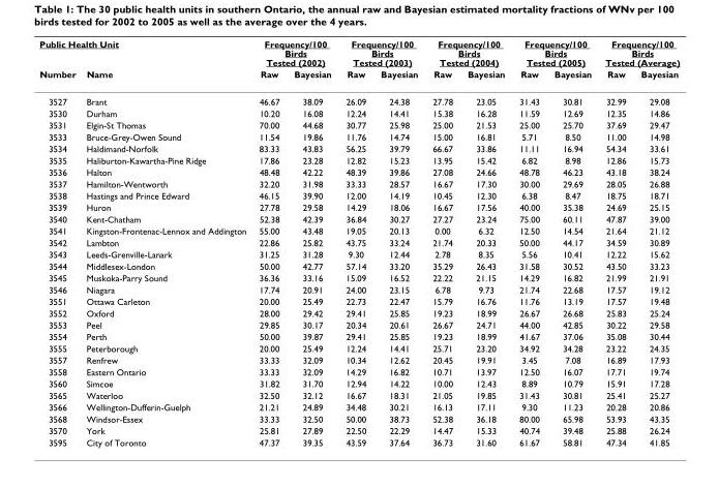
<table><thead><tr><td colspan="2">Public Health Unit</td><td colspan="2">Frequency/100 Birds Tested (2002)</td><td colspan="2">Frequency/100 Birds Tested (2003)</td><td colspan="2">Frequency/100 Birds Tested (2004)</td><td colspan="2">Frequency/100 Birds Tested (2005)</td><td colspan="2">Frequency/100 Birds Tested (Average)</td></tr><tr><td>Number</td><td>Name</td><td>Raw</td><td>Bayesian</td><td>Raw</td><td>Bayesian</td><td>Raw</td><td>Bayesian</td><td>Raw</td><td>Bayesian</td><td>Raw</td><td>Bayesian</td></tr></thead><tbody><tr><td>3527</td><td>Brant</td><td>46.67</td><td>38.09</td><td>26.09</td><td>24.38</td><td>27.78</td><td>23.05</td><td>31.43</td><td>30.81</td><td>32.99</td><td>29.08</td></tr><tr><td>3530</td><td>Durham</td><td>10.20</td><td>16.08</td><td>12.24</td><td>14.41</td><td>15.38</td><td>16.28</td><td>11.59</td><td>12.69</td><td>12.35</td><td>14.86</td></tr><tr><td>3531</td><td>Elgin-St Thomas</td><td>70.00</td><td>44.68</td><td>30.77</td><td>25.98</td><td>25.00</td><td>21.53</td><td>25.00</td><td>25.70</td><td>37.69</td><td>29.47</td></tr><tr><td>3533</td><td>Bruce-Grey-Owen Sound</td><td>11.54</td><td>19.86</td><td>11.76</td><td>14.74</td><td>15.00</td><td>16.81</td><td>5.71</td><td>8.50</td><td>11.00</td><td>14.98</td></tr><tr><td>3534</td><td>Haldimand-Norfolk</td><td>83.33</td><td>43.83</td><td>56.25</td><td>39.79</td><td>66.67</td><td>33.86</td><td>11.11</td><td>16.94</td><td>54.34</td><td>33.61</td></tr><tr><td>3535</td><td>Haliburton-Kawartha-Pine Ridge</td><td>17.86</td><td>23.28</td><td>12.82</td><td>15.23</td><td>13.95</td><td>15.42</td><td>6.82</td><td>8.98</td><td>12.86</td><td>15.73</td></tr><tr><td>3536</td><td>Halton</td><td>48.48</td><td>42.22</td><td>48.39</td><td>39.86</td><td>27.08</td><td>24.66</td><td>48.78</td><td>46.23</td><td>43.18</td><td>38.24</td></tr><tr><td>3537</td><td>Hamilton-Wentworth</td><td>32.20</td><td>31.98</td><td>33.33</td><td>28.57</td><td>16.67</td><td>17.30</td><td>30.00</td><td>29.69</td><td>28.05</td><td>26.88</td></tr><tr><td>3538</td><td>Hastings and Prince Edward</td><td>46.15</td><td>39.90</td><td>12.00</td><td>14.19</td><td>10.45</td><td>12.30</td><td>6.38</td><td>8.47</td><td>18.75</td><td>18.71</td></tr><tr><td>3539</td><td>Huron</td><td>27.78</td><td>29.58</td><td>14.29</td><td>18.06</td><td>16.67</td><td>17.56</td><td>40.00</td><td>35.38</td><td>24.69</td><td>25.15</td></tr><tr><td>3540</td><td>Kent-Chatham</td><td>52.38</td><td>42.39</td><td>36.84</td><td>30.27</td><td>27.27</td><td>23.24</td><td>75.00</td><td>60.11</td><td>47.87</td><td>39.00</td></tr><tr><td>3541</td><td>Kingston-Frontenac-Lennox and Addington</td><td>55.00</td><td>43.48</td><td>19.05</td><td>20.13</td><td>0.00</td><td>6.32</td><td>12.50</td><td>14.54</td><td>21.64</td><td>21.12</td></tr><tr><td>3542</td><td>Lambton</td><td>22.86</td><td>25.82</td><td>43.75</td><td>33.24</td><td>21.74</td><td>20.33</td><td>50.00</td><td>44.17</td><td>34.59</td><td>30.89</td></tr><tr><td>3543</td><td>Leeds-Grenville-Lanark</td><td>31.25</td><td>31.28</td><td>9.30</td><td>12.44</td><td>2.78</td><td>8.35</td><td>5.56</td><td>10.41</td><td>12.22</td><td>15.62</td></tr><tr><td>3544</td><td>Middlesex-London</td><td>50.00</td><td>42.77</td><td>57.14</td><td>33.20</td><td>35.29</td><td>26.43</td><td>31.58</td><td>30.52</td><td>43.50</td><td>33.23</td></tr><tr><td>3545</td><td>Muskoka-Parry Sound</td><td>36.36</td><td>33.16</td><td>15.09</td><td>16.52</td><td>22.22</td><td>21.15</td><td>14.29</td><td>16.82</td><td>21.99</td><td>21.91</td></tr><tr><td>3546</td><td>Niagara</td><td>17.74</td><td>20.91</td><td>24.00</td><td>23.15</td><td>6.78</td><td>9.73</td><td>21.74</td><td>22.68</td><td>17.57</td><td>19.12</td></tr><tr><td>3551</td><td>Ottawa Carleton</td><td>20.00</td><td>25.49</td><td>22.73</td><td>22.47</td><td>15.79</td><td>16.76</td><td>11.76</td><td>13.19</td><td>17.57</td><td>19.48</td></tr><tr><td>3552</td><td>Oxford</td><td>28.00</td><td>29.42</td><td>29.41</td><td>25.85</td><td>19.23</td><td>18.99</td><td>26.67</td><td>26.68</td><td>25.83</td><td>25.24</td></tr><tr><td>3553</td><td>Peel</td><td>29.85</td><td>30.17</td><td>20.34</td><td>20.61</td><td>26.67</td><td>24.71</td><td>44.00</td><td>42.85</td><td>30.22</td><td>29.58</td></tr><tr><td>3554</td><td>Perth</td><td>50.00</td><td>39.87</td><td>29.41</td><td>25.85</td><td>19.23</td><td>18.99</td><td>41.67</td><td>37.06</td><td>35.08</td><td>30.44</td></tr><tr><td>3555</td><td>Peterborough</td><td>20.00</td><td>25.49</td><td>12.24</td><td>14.41</td><td>25.71</td><td>23.20</td><td>34.92</td><td>34.28</td><td>23.22</td><td>24.35</td></tr><tr><td>3557</td><td>Renfrew</td><td>33.33</td><td>32.09</td><td>10.34</td><td>12.62</td><td>20.45</td><td>19.91</td><td>3.45</td><td>7.08</td><td>16.89</td><td>17.93</td></tr><tr><td>3558</td><td>Eastern Ontario</td><td>33.33</td><td>32.09</td><td>14.29</td><td>16.82</td><td>10.71</td><td>13.97</td><td>12.50</td><td>16.07</td><td>17.71</td><td>19.74</td></tr><tr><td>3560</td><td>Simcoe</td><td>31.82</td><td>31.70</td><td>12.94</td><td>14.22</td><td>10.00</td><td>12.43</td><td>8.89</td><td>10.79</td><td>15.91</td><td>17.28</td></tr><tr><td>3565</td><td>Waterloo</td><td>32.50</td><td>32.12</td><td>16.67</td><td>18.31</td><td>21.05</td><td>19.85</td><td>31.43</td><td>30.81</td><td>25.41</td><td>25.27</td></tr><tr><td>3566</td><td>Wellington-Dufferin-Guelph</td><td>21.21</td><td>24.89</td><td>34.48</td><td>30.21</td><td>16.13</td><td>17.11</td><td>9.30</td><td>11.23</td><td>20.28</td><td>20.86</td></tr><tr><td>3568</td><td>Windsor-Essex</td><td>33.33</td><td>32.50</td><td>50.00</td><td>38.73</td><td>52.38</td><td>36.18</td><td>80.00</td><td>65.98</td><td>53.93</td><td>43.35</td></tr><tr><td>3570</td><td>York</td><td>25.81</td><td>27.89</td><td>22.50</td><td>22.29</td><td>14.47</td><td>15.33</td><td>40.74</td><td>39.48</td><td>25.88</td><td>26.24</td></tr><tr><td>3595</td><td>City of Toronto</td><td>47.37</td><td>39.35</td><td>43.59</td><td>37.64</td><td>36.73</td><td>31.60</td><td>61.67</td><td>58.81</td><td>47.34</td><td>41.85</td></tr></tbody></table>